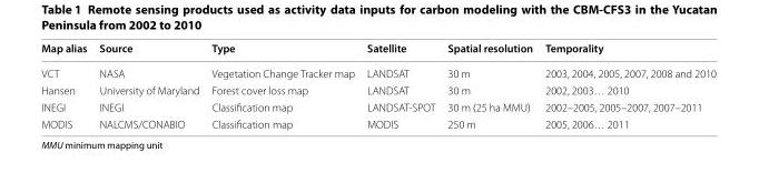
<table><thead><tr><td>Map alias</td><td>Source</td><td>Type</td><td>Satellite</td><td>Spatial resolution</td><td>Temporality</td></tr></thead><tbody><tr><td>VCT</td><td>NASA</td><td>Vegetation Change Tracker map</td><td>LANDSAT</td><td>30 m</td><td>2003, 2004, 2005, 2007, 2008 and 2010</td></tr><tr><td>Hansen</td><td>University of Maryland</td><td>Forest cover loss map</td><td>LANDSAT</td><td>30 m</td><td>2002, 2003… 2010</td></tr><tr><td>INEGI</td><td>INEGI</td><td>Classification map</td><td>LANDSAT-SPOT</td><td>30 m (25 ha MMU)</td><td>2002–2005, 2005–2007, 2007–2011</td></tr><tr><td>MODIS</td><td>NALCMS/CONABIO</td><td>Classification map</td><td>MODIS</td><td>250 m</td><td>2005, 2006… 2011</td></tr></tbody></table>